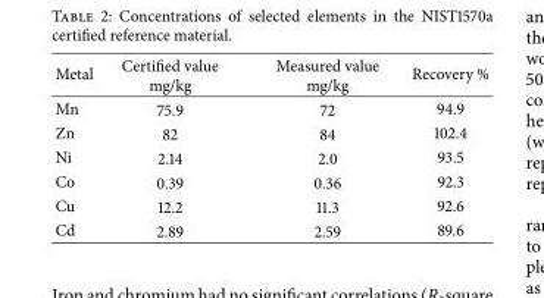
<table><thead><tr><td>Metal</td><td>Certified value mg/kg</td><td>Measured value mg/kg</td><td>Recovery %</td></tr></thead><tbody><tr><td>Mn</td><td>75.9</td><td>72</td><td>94.9</td></tr><tr><td>Zn</td><td>82</td><td>84</td><td>102.4</td></tr><tr><td>Ni</td><td>2.14</td><td>2.0</td><td>93.5</td></tr><tr><td>Co</td><td>0.39</td><td>0.36</td><td>92.3</td></tr><tr><td>Cu</td><td>12.2</td><td>11.3</td><td>92.6</td></tr><tr><td>Cd</td><td>2.89</td><td>2.59</td><td>89.6</td></tr></tbody></table>